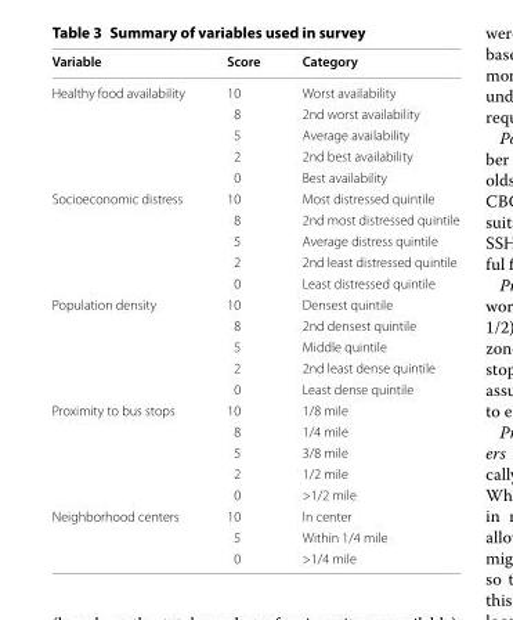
<table><thead><tr><td>Variable</td><td>Score</td><td>Category</td></tr></thead><tbody><tr><td rowspan="5">Healthy food availability</td><td>10</td><td>Worst availability</td></tr><tr><td>8</td><td>2nd worst availability</td></tr><tr><td>5</td><td>Average availability</td></tr><tr><td>2</td><td>2nd best availability</td></tr><tr><td>0</td><td>Best availability</td></tr><tr><td rowspan="5">Socioeconomic distress</td><td>10</td><td>Most distressed quintile</td></tr><tr><td>8</td><td>2nd most distressed quintile</td></tr><tr><td>5</td><td>Average distress quintile</td></tr><tr><td>2</td><td>2nd least distressed quintile</td></tr><tr><td>0</td><td>Least distressed quintile</td></tr><tr><td rowspan="5">Population density</td><td>10</td><td>Densest quintile</td></tr><tr><td>8</td><td>2nd densest quintile</td></tr><tr><td>5</td><td>Middle quintile</td></tr><tr><td>2</td><td>2nd least dense quintile</td></tr><tr><td>0</td><td>Least dense quintile</td></tr><tr><td rowspan="5">Proximity to bus stops</td><td>10</td><td>1/8 mile</td></tr><tr><td>8</td><td>1/4 mile</td></tr><tr><td>5</td><td>3/8 mile</td></tr><tr><td>2</td><td>1/2 mile</td></tr><tr><td>0</td><td>&gt;1/2 mile</td></tr><tr><td rowspan="3">Neighborhood centers</td><td>10</td><td>In center</td></tr><tr><td>5</td><td>Within 1/4 mile</td></tr><tr><td>0</td><td>&gt;1/4 mile</td></tr></tbody></table>